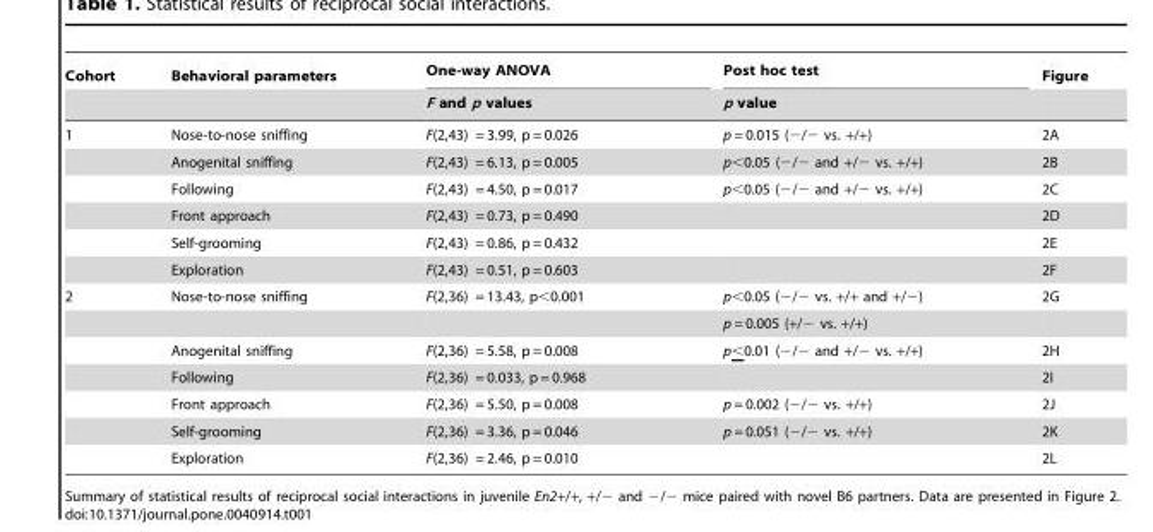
<table><thead><tr><td rowspan="2">Cohort</td><td rowspan="2">Behavioral parameters</td><td rowspan="2">One-way ANOVA F and p values</td><td rowspan="2">Post hoc test p value</td><td rowspan="2">Figure</td></tr><tr></tr></thead><tbody><tr><td rowspan="6">1</td><td>Nose-to-nose sniffing</td><td>F(2,43) = 3.99, p = 0.026</td><td>p = 0.015 (−/− vs. +/+)</td><td>2A</td></tr><tr><td>Anogenital sniffing</td><td>F(2,43) = 6.13, p = 0.005</td><td>p&lt;0.05 (−/− and +/− vs. +/+)</td><td>2B</td></tr><tr><td>Following</td><td>F(2,43) = 4.50, p = 0.017</td><td>p&lt;0.05 (−/− and +/− vs. +/+)</td><td>2C</td></tr><tr><td>Front approach</td><td>F(2,43) = 0.73, p = 0.490</td><td></td><td>2D</td></tr><tr><td>Self-grooming</td><td>F(2,43) = 0.86, p = 0.432</td><td></td><td>2E</td></tr><tr><td>Exploration</td><td>F(2,43) = 0.51, p = 0.603</td><td></td><td>2F</td></tr><tr><td rowspan="7">2</td><td>Nose-to-nose sniffing</td><td>F(2,36) = 13.43, p&lt;0.001</td><td>p&lt;0.05 (−/− vs. +/+ and +/−)</td><td>2G</td></tr><tr><td></td><td></td><td>p = 0.005 (+/− vs. +/+)</td><td></td></tr><tr><td>Anogenital sniffing</td><td>F(2,36) = 5.58, p = 0.008</td><td>p&lt;0.01 (−/− and +/− vs. +/+)</td><td>2H</td></tr><tr><td>Following</td><td>F(2,36) = 0.033, p = 0.968</td><td></td><td>2I</td></tr><tr><td>Front approach</td><td>F(2,36) = 5.50, p = 0.008</td><td>p = 0.002 (−/− vs. +/+)</td><td>2J</td></tr><tr><td>Self-grooming</td><td>F(2,36) = 3.36, p = 0.046</td><td>p = 0.051 (−/− vs. +/+)</td><td>2K</td></tr><tr><td>Exploration</td><td>F(2,36) = 2.46, p = 0.010</td><td></td><td>2L</td></tr></tbody></table>